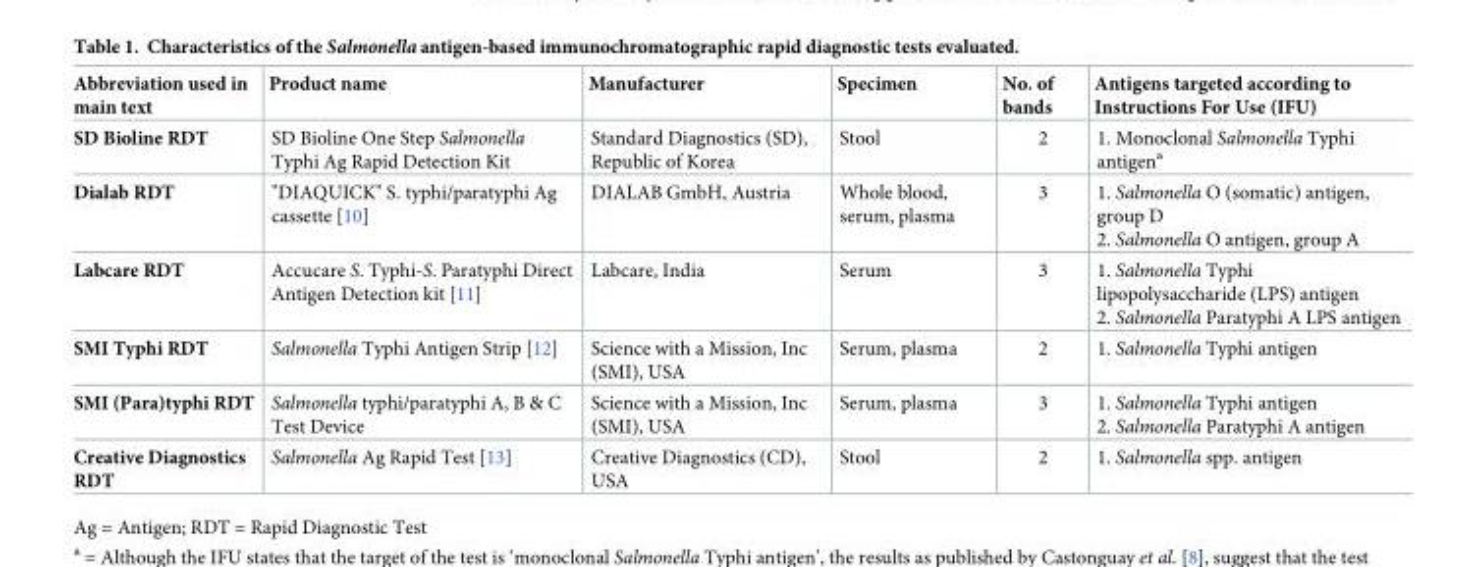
<table><thead><tr><td>Abbreviation used in main text</td><td>Product name</td><td>Manufacturer</td><td>Specimen</td><td>No. of bands</td><td>Antigens targeted according to Instructions For Use (IFU)</td></tr></thead><tbody><tr><td>SD Bioline RDT</td><td>SD Bioline One Step Salmonella Typhi Ag Rapid Detection Kit</td><td>Standard Diagnostics (SD), Republic of Korea</td><td>Stool</td><td>2</td><td>1. Monoclonal Salmonella Typhi antigen<sup>a</sup></td></tr><tr><td>Dialab RDT</td><td>&quot;DIAQUICK&quot; S. typhi/paratyphi Ag cassette [10]</td><td>DIALAB GmbH, Austria</td><td>Whole blood, serum, plasma</td><td>3</td><td>1. Salmonella O (somatic) antigen, group D 2. Salmonella O antigen, group A</td></tr><tr><td>Labcare RDT</td><td>Accucare S. Typhi-S. Paratyphi Direct Antigen Detection kit [11]</td><td>Labcare, India</td><td>Serum</td><td>3</td><td>1. Salmonella Typhi lipopolysaccharide (LPS) antigen 2. Salmonella Paratyphi A LPS antigen</td></tr><tr><td>SMI Typhi RDT</td><td>Salmonella Typhi Antigen Strip [12]</td><td>Science with a Mission, Inc (SMI), USA</td><td>Serum, plasma</td><td>2</td><td>1. Salmonella Typhi antigen</td></tr><tr><td>SMI (Para)typhi RDT</td><td>Salmonella typhi/paratyphi A, B &amp; C Test Device</td><td>Science with a Mission, Inc (SMI), USA</td><td>Serum, plasma</td><td>3</td><td>1. Salmonella Typhi antigen 2. Salmonella Paratyphi A antigen</td></tr><tr><td>Creative Diagnostics RDT</td><td>Salmonella Ag Rapid Test [13]</td><td>Creative Diagnostics (CD), USA</td><td>Stool</td><td>2</td><td>1. Salmonella spp. antigen</td></tr></tbody></table>